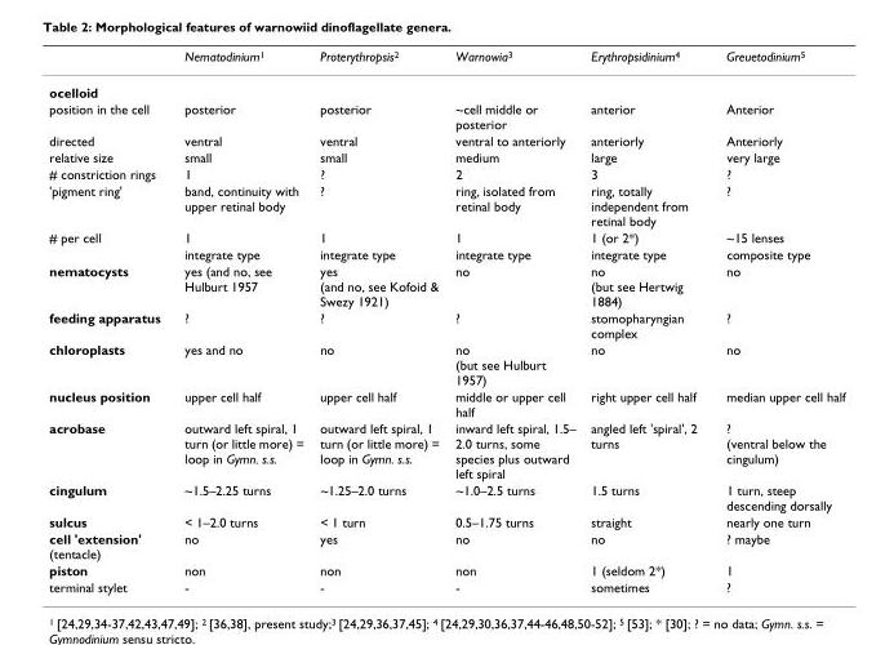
<table><thead><tr><td></td><td>Nematodinium<sup>1</sup></td><td>Proterythropsis<sup>2</sup></td><td>Warnowia<sup>3</sup></td><td>Erythropsidinium<sup>4</sup></td><td>Greuetodinium<sup>5</sup></td></tr></thead><tbody><tr><td colspan="6">ocelloid</td></tr><tr><td>position in the cell</td><td>posterior</td><td>posterior</td><td>~cell middle or posterior</td><td>anterior</td><td>Anterior</td></tr><tr><td>directed</td><td>ventral</td><td>ventral</td><td>ventral to anteriorly</td><td>anteriorly</td><td>Anteriorly</td></tr><tr><td>relative size</td><td>small</td><td>small</td><td>medium</td><td>large</td><td>very large</td></tr><tr><td># constriction rings</td><td>1</td><td>?</td><td>2</td><td>3</td><td>?</td></tr><tr><td>&#x27;pigment ring&#x27;</td><td>band, continuity with upper retinal body</td><td>?</td><td>ring, isolated from retinal body</td><td>ring, totally independent from retinal body</td><td>?</td></tr><tr><td rowspan="2"># per cell</td><td>1</td><td>1</td><td>1</td><td>1 (or 2*)</td><td>~15 lenses</td></tr><tr><td>integrate type</td><td>integrate type</td><td>integrate type</td><td>integrate type</td><td>composite type</td></tr><tr><td>nematocysts</td><td>yes (and no, see Hulburt 1957</td><td>yes (and no, see Kofoid &amp; Swezy 1921)</td><td>no</td><td>no (but see Hertwig 1884)</td><td>no</td></tr><tr><td>feeding apparatus</td><td>?</td><td>?</td><td>?</td><td>stomopharyngian complex</td><td>?</td></tr><tr><td>chloroplasts</td><td>yes and no</td><td>no</td><td>no (but see Hulburt 1957)</td><td>no</td><td>no</td></tr><tr><td>nucleus position</td><td>upper cell half</td><td>upper cell half</td><td>middle or upper cell half</td><td>right upper cell half</td><td>median upper cell half</td></tr><tr><td>acrobase</td><td>outward left spiral, 1 turn (or little more) = loop in Gymn. s.s.</td><td>outward left spiral, 1 turn (or little more) = loop in Gymn. s.s.</td><td>inward left spiral, 1.5– 2.0 turns, some species plus outward left spiral</td><td>angled left &#x27;spiral&#x27;, 2 turns</td><td>? (ventral below the cingulum)</td></tr><tr><td>cingulum</td><td>~1.5–2.25 turns</td><td>~1.25–2.0 turns</td><td>~1.0–2.5 turns</td><td>1.5 turns</td><td>1 turn, steep descending dorsally</td></tr><tr><td>sulcus</td><td>&lt; 1–2.0 turns</td><td>&lt; 1 turn</td><td>0.5–1.75 turns</td><td>straight</td><td>nearly one turn</td></tr><tr><td>cell &#x27;extension&#x27; (tentacle)</td><td>no</td><td>yes</td><td>no</td><td>no</td><td>? maybe</td></tr><tr><td>piston</td><td>non</td><td>non</td><td>non</td><td>1 (seldom 2*)</td><td>1</td></tr><tr><td>terminal stylet</td><td>-</td><td>-</td><td>-</td><td>sometimes</td><td>?</td></tr></tbody></table>